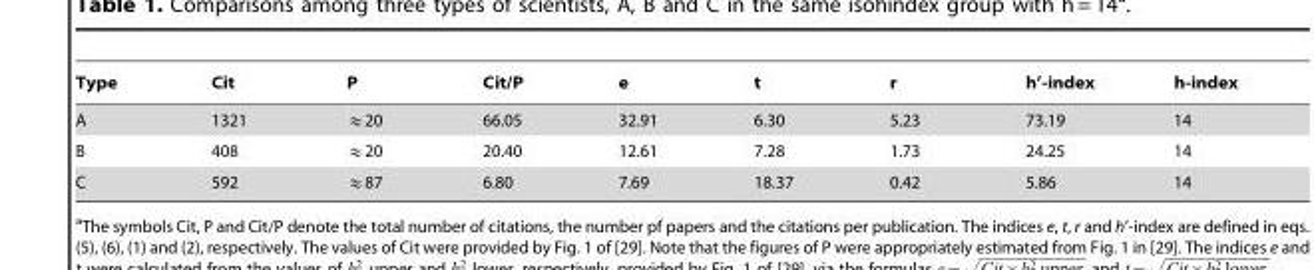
<table><thead><tr><td>Type</td><td>Cit</td><td>P</td><td>Cit/P</td><td>e</td><td>t</td><td>r</td><td>h’-index</td><td>h-index</td></tr></thead><tbody><tr><td>A</td><td>1321</td><td>&amp;20</td><td>66.05</td><td>32.91</td><td>6.30</td><td>5.23</td><td>73.19</td><td>14</td></tr><tr><td>B</td><td>408</td><td>&amp;20</td><td>20.40</td><td>12.61</td><td>7.28</td><td>1.73</td><td>24.25</td><td>14</td></tr><tr><td>C</td><td>592</td><td>&amp;87</td><td>6.80</td><td>7.69</td><td>18.37</td><td>0.42</td><td>5.86</td><td>14</td></tr></tbody></table>